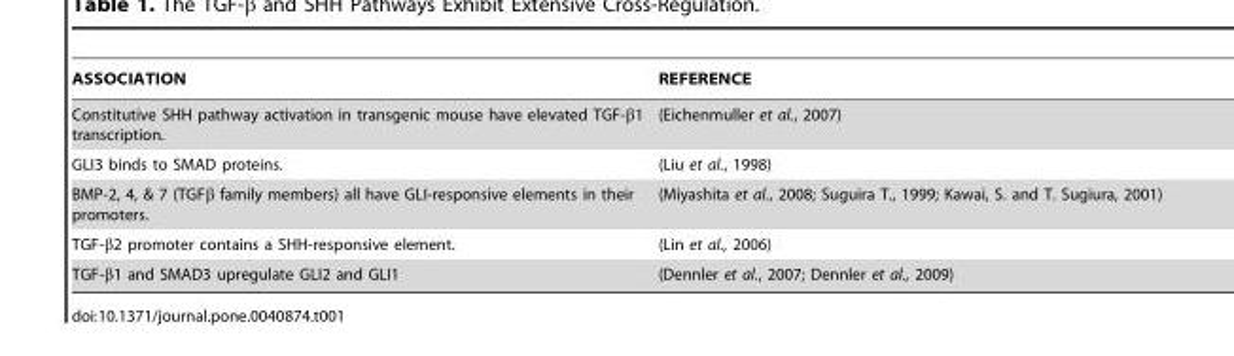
<table><thead><tr><td>ASSOCIATION</td><td>REFERENCE</td></tr></thead><tbody><tr><td>Constitutive SHH pathway activation in transgenic mouse have elevated TGF-β1 transcription.</td><td>(Eichenmuller et al., 2007)</td></tr><tr><td>GLI3 binds to SMAD proteins.</td><td>(Liu et al., 1998)</td></tr><tr><td>BMP-2, 4, &amp; 7 (TGFβ family members) all have GLI-responsive elements in their promoters.</td><td>(Miyashita et al., 2008; Suguira T., 1999; Kawai, S. and T. Sugiura, 2001)</td></tr><tr><td>TGF-β2 promoter contains a SHH-responsive element.</td><td>(Lin et al., 2006)</td></tr><tr><td>TGF-β1 and SMAD3 upregulate GLI2 and GLI1</td><td>(Dennler et al., 2007; Dennler et al., 2009)</td></tr></tbody></table>